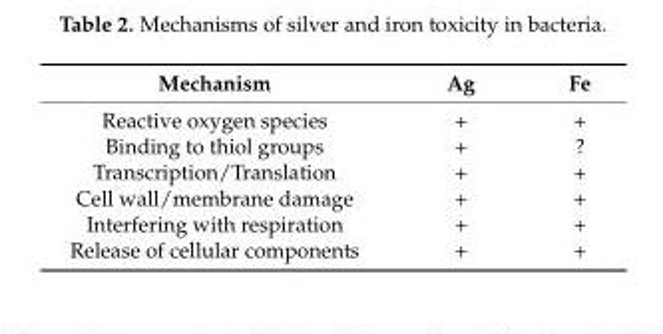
<table><thead><tr><td>Mechanism</td><td>Ag</td><td>Fe</td></tr></thead><tbody><tr><td>Reactive oxygen species</td><td>+</td><td>+</td></tr><tr><td>Binding to thiol groups</td><td>+</td><td>?</td></tr><tr><td>Transcription/Translation</td><td>+</td><td>+</td></tr><tr><td>Cell wall/membrane damage</td><td>+</td><td>+</td></tr><tr><td>Interfering with respiration</td><td>+</td><td>+</td></tr><tr><td>Release of cellular components</td><td>+</td><td>+</td></tr></tbody></table>